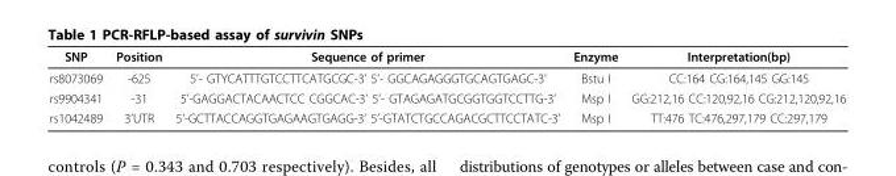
<table><thead><tr><td>SNP</td><td>Position</td><td>Sequence of primer</td><td>Enzyme</td><td>Interpretation(bp)</td></tr></thead><tbody><tr><td>rs8073069</td><td>-625</td><td>5’- GTYCATTTGTCCTTCATGCGC-3’ 5’- GGCAGAGGGTGCAGTGAGC-3’</td><td>Bstu I</td><td>CC:164 CG:164,145 GG:145</td></tr><tr><td>rs9904341</td><td>-31</td><td>5’-GAGGACTACAACTCC CGGCAC-3’ 5’- GTAGAGATGCGGTGGTCCTTG-3’</td><td>Msp I</td><td>GG:212,16 CC:120,92,16 CG:212,120,92,16</td></tr><tr><td>rs1042489</td><td>3’UTR</td><td>5’-GCTTACCAGGTGAGAAGTGAGG-3’ 5’-GTATCTGCCAGACGCTTCCTATC-3’</td><td>Msp I</td><td>TT:476 TC:476,297,179 CC:297,179</td></tr></tbody></table>